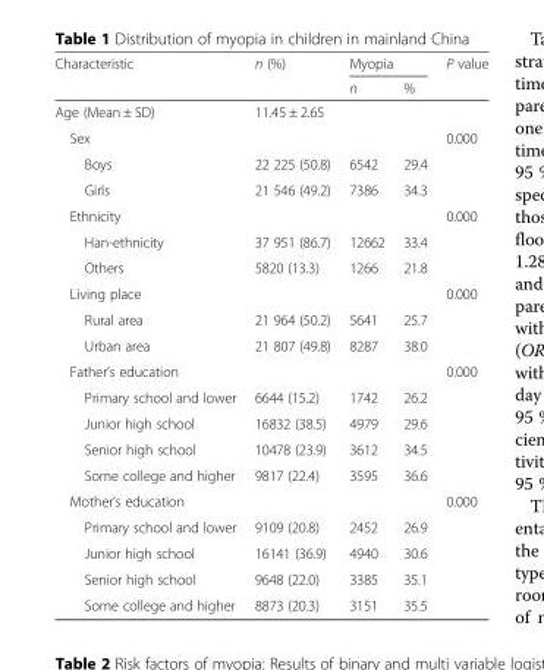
<table><thead><tr><td rowspan="2">Characteristic</td><td rowspan="2">n (%)</td><td colspan="2">Myopia</td><td rowspan="2">P value</td></tr><tr><td>n</td><td>%</td></tr></thead><tbody><tr><td>Age (Mean ± SD)</td><td>11.45 ± 2.65</td><td></td><td></td><td></td></tr><tr><td>Sex</td><td></td><td></td><td></td><td>0.000</td></tr><tr><td>Boys</td><td>22 225 (50.8)</td><td>6542</td><td>29.4</td><td></td></tr><tr><td>Girls</td><td>21 546 (49.2)</td><td>7386</td><td>34.3</td><td></td></tr><tr><td>Ethnicity</td><td></td><td></td><td></td><td>0.000</td></tr><tr><td>Han-ethnicity</td><td>37 951 (86.7)</td><td>12662</td><td>33.4</td><td></td></tr><tr><td>Others</td><td>5820 (13.3)</td><td>1266</td><td>21.8</td><td></td></tr><tr><td>Living place</td><td></td><td></td><td></td><td>0.000</td></tr><tr><td>Rural area</td><td>21 964 (50.2)</td><td>5641</td><td>25.7</td><td></td></tr><tr><td>Urban area</td><td>21 807 (49.8)</td><td>8287</td><td>38.0</td><td></td></tr><tr><td>Father’s education</td><td></td><td></td><td></td><td>0.000</td></tr><tr><td>Primary school and lower</td><td>6644 (15.2)</td><td>1742</td><td>26.2</td><td></td></tr><tr><td>Junior high school</td><td>16832 (38.5)</td><td>4979</td><td>29.6</td><td></td></tr><tr><td>Senior high school</td><td>10478 (23.9)</td><td>3612</td><td>34.5</td><td></td></tr><tr><td>Some college and higher</td><td>9817 (22.4)</td><td>3595</td><td>36.6</td><td></td></tr><tr><td>Mother’s education</td><td></td><td></td><td></td><td>0.000</td></tr><tr><td>Primary school and lower</td><td>9109 (20.8)</td><td>2452</td><td>26.9</td><td></td></tr><tr><td>Junior high school</td><td>16141 (36.9)</td><td>4940</td><td>30.6</td><td></td></tr><tr><td>Senior high school</td><td>9648 (22.0)</td><td>3385</td><td>35.1</td><td></td></tr><tr><td>Some college and higher</td><td>8873 (20.3)</td><td>3151</td><td>35.5</td><td></td></tr></tbody></table>